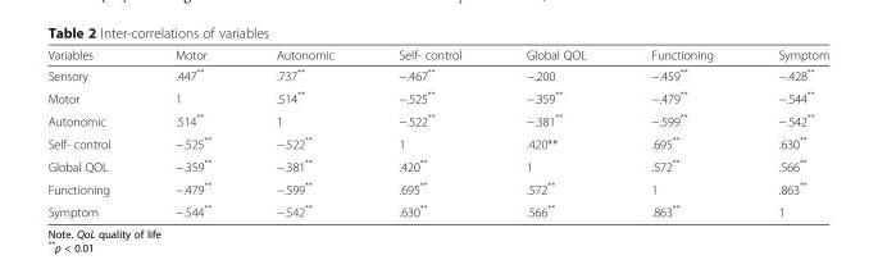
<table><thead><tr><td>Variables</td><td>Motor</td><td>Autonomic</td><td>Self- control</td><td>Global QOL</td><td>Functioning</td><td>Symptom</td></tr></thead><tbody><tr><td>Sensory</td><td>.447**</td><td>.737**</td><td>−.467**</td><td>−.200</td><td>−.459**</td><td>−.428**</td></tr><tr><td>Motor</td><td>1</td><td>.514**</td><td>−.525**</td><td>−.359**</td><td>−.479**</td><td>−.544**</td></tr><tr><td>Autonomic</td><td>.514**</td><td>1</td><td>−.522**</td><td>−.381**</td><td>−.599**</td><td>−.542**</td></tr><tr><td>Self- control</td><td>−.525**</td><td>−.522**</td><td>1</td><td>.420**</td><td>.695**</td><td>.630**</td></tr><tr><td>Global QOL</td><td>−.359**</td><td>−.381**</td><td>.420**</td><td>1</td><td>.572**</td><td>.566**</td></tr><tr><td>Functioning</td><td>−.479**</td><td>−.599**</td><td>.695**</td><td>.572**</td><td>1</td><td>.863**</td></tr><tr><td>Symptom</td><td>−.544**</td><td>−.542**</td><td>.630**</td><td>.566**</td><td>.863**</td><td>1</td></tr></tbody></table>